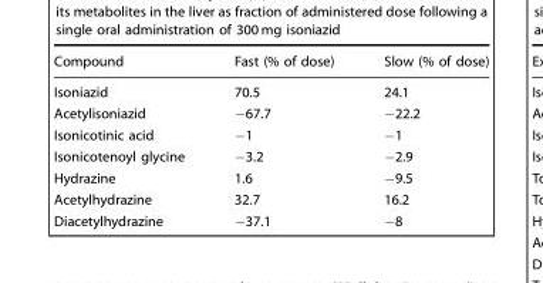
<table><thead><tr><td>Compound</td><td>Fast (% of dose)</td><td>Slow (% of dose)</td></tr></thead><tbody><tr><td>Isoniazid</td><td>70.5</td><td>24.1</td></tr><tr><td>Acetylisoniazid</td><td>−67.7</td><td>−22.2</td></tr><tr><td>Isonicotinic acid</td><td>−1</td><td>−1</td></tr><tr><td>Isonicotenoyl glycine</td><td>−3.2</td><td>−2.9</td></tr><tr><td>Hydrazine</td><td>1.6</td><td>−9.5</td></tr><tr><td>Acetylhydrazine</td><td>32.7</td><td>16.2</td></tr><tr><td>Diacetylhydrazine</td><td>−37.1</td><td>−8</td></tr></tbody></table>